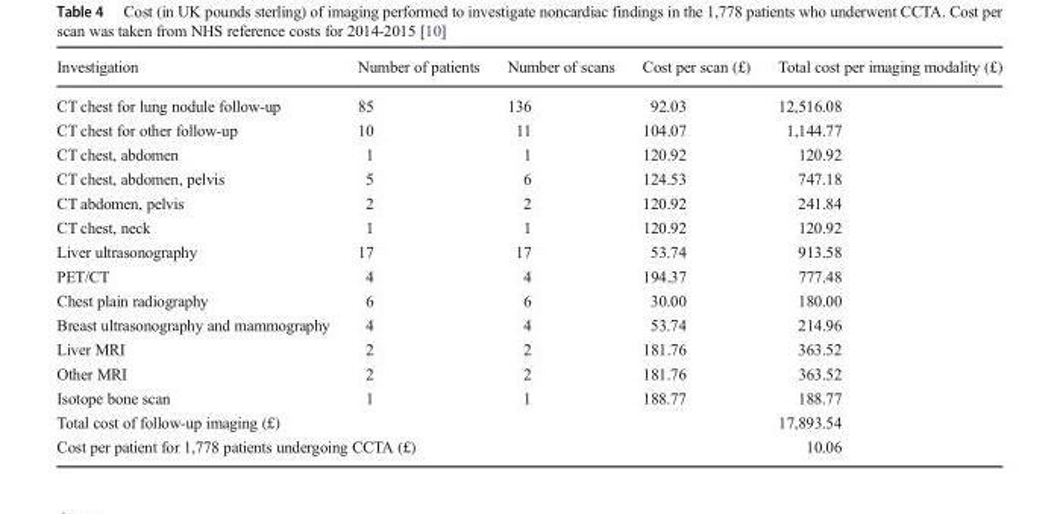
<table><thead><tr><td>Investigation</td><td>Number of patients</td><td>Number of scans</td><td>Cost per scan (£)</td><td>Total cost per imaging modality (£)</td></tr></thead><tbody><tr><td>CT chest for lung nodule follow-up</td><td>85</td><td>136</td><td>92.03</td><td>12,516.08</td></tr><tr><td>CT chest for other follow-up</td><td>10</td><td>11</td><td>104.07</td><td>1,144.77</td></tr><tr><td>CT chest, abdomen</td><td>1</td><td>1</td><td>120.92</td><td>120.92</td></tr><tr><td>CT chest, abdomen, pelvis</td><td>5</td><td>6</td><td>124.53</td><td>747.18</td></tr><tr><td>CT abdomen, pelvis</td><td>2</td><td>2</td><td>120.92</td><td>241.84</td></tr><tr><td>CT chest, neck</td><td>1</td><td>1</td><td>120.92</td><td>120.92</td></tr><tr><td>Liver ultrasonography</td><td>17</td><td>17</td><td>53.74</td><td>913.58</td></tr><tr><td>PET/CT</td><td>4</td><td>4</td><td>194.37</td><td>777.48</td></tr><tr><td>Chest plain radiography</td><td>6</td><td>6</td><td>30.00</td><td>180.00</td></tr><tr><td>Breast ultrasonography and mammography</td><td>4</td><td>4</td><td>53.74</td><td>214.96</td></tr><tr><td>Liver MRI</td><td>2</td><td>2</td><td>181.76</td><td>363.52</td></tr><tr><td>Other MRI</td><td>2</td><td>2</td><td>181.76</td><td>363.52</td></tr><tr><td>Isotope bone scan</td><td>1</td><td>1</td><td>188.77</td><td>188.77</td></tr><tr><td colspan="4">Total cost of follow-up imaging (£)</td><td>17,893.54</td></tr><tr><td colspan="4">Cost per patient for 1,778 patients undergoing CCTA (£)</td><td>10.06</td></tr></tbody></table>